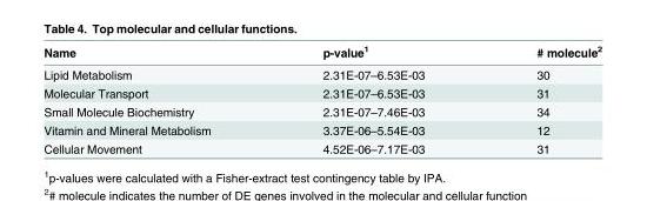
<table><thead><tr><td>Name</td><td>p-value<sup>1</sup></td><td># molecule<sup>2</sup></td></tr></thead><tbody><tr><td>Lipid Metabolism</td><td>2.31E-07–6.53E-03</td><td>30</td></tr><tr><td>Molecular Transport</td><td>2.31E-07–6.53E-03</td><td>31</td></tr><tr><td>Small Molecule Biochemistry</td><td>2.31E-07–7.46E-03</td><td>34</td></tr><tr><td>Vitamin and Mineral Metabolism</td><td>3.37E-06–5.54E-03</td><td>12</td></tr><tr><td>Cellular Movement</td><td>4.52E-06–7.17E-03</td><td>31</td></tr></tbody></table>